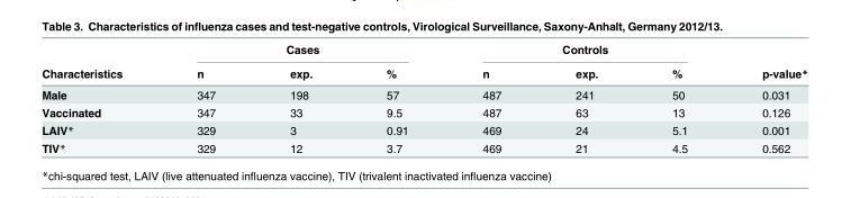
<table><thead><tr><td rowspan="2">Characteristics</td><td colspan="3">Cases</td><td colspan="3">Controls</td><td rowspan="2">p-value*</td></tr><tr><td>n</td><td>exp.</td><td>%</td><td>n</td><td>exp.</td><td>%</td></tr></thead><tbody><tr><td>Male</td><td>347</td><td>198</td><td>57</td><td>487</td><td>241</td><td>50</td><td>0.031</td></tr><tr><td>Vaccinated</td><td>347</td><td>33</td><td>9.5</td><td>487</td><td>63</td><td>13</td><td>0.126</td></tr><tr><td>LAIV*</td><td>329</td><td>3</td><td>0.91</td><td>469</td><td>24</td><td>5.1</td><td>0.001</td></tr><tr><td>TIV*</td><td>329</td><td>12</td><td>3.7</td><td>469</td><td>21</td><td>4.5</td><td>0.562</td></tr></tbody></table>